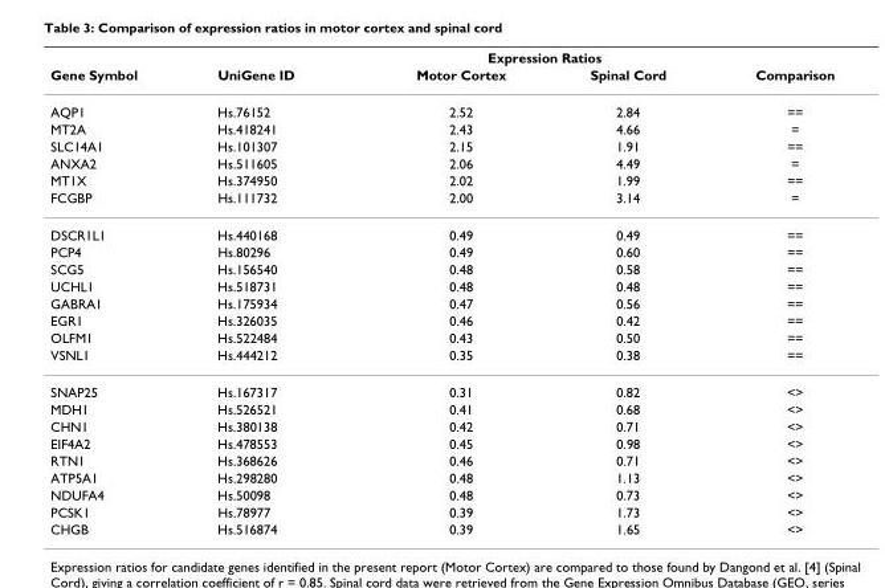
<table><thead><tr><td rowspan="2">Gene Symbol</td><td rowspan="2">UniGene ID</td><td colspan="2">Expression Ratios</td><td rowspan="2">Comparison</td></tr><tr><td>Motor Cortex</td><td>Spinal Cord</td></tr></thead><tbody><tr><td>AQP1</td><td>Hs.76152</td><td>2.52</td><td>2.84</td><td>==</td></tr><tr><td>MT2A</td><td>Hs.418241</td><td>2.43</td><td>4.66</td><td>=</td></tr><tr><td>SLC14A1</td><td>Hs.101307</td><td>2.15</td><td>1.91</td><td>==</td></tr><tr><td>ANXA2</td><td>Hs.511605</td><td>2.06</td><td>4.49</td><td>=</td></tr><tr><td>MT1X</td><td>Hs.374950</td><td>2.02</td><td>1.99</td><td>==</td></tr><tr><td>FCGBP</td><td>Hs.111732</td><td>2.00</td><td>3.14</td><td>=</td></tr><tr><td>DSCR1L1</td><td>Hs.440168</td><td>0.49</td><td>0.49</td><td>==</td></tr><tr><td>PCP4</td><td>Hs.80296</td><td>0.49</td><td>0.60</td><td>==</td></tr><tr><td>SCG5</td><td>Hs.156540</td><td>0.48</td><td>0.58</td><td>==</td></tr><tr><td>UCHL1</td><td>Hs.518731</td><td>0.48</td><td>0.48</td><td>==</td></tr><tr><td>GABRA1</td><td>Hs.175934</td><td>0.47</td><td>0.56</td><td>==</td></tr><tr><td>EGR1</td><td>Hs.326035</td><td>0.46</td><td>0.42</td><td>==</td></tr><tr><td>OLFM1</td><td>Hs.522484</td><td>0.43</td><td>0.50</td><td>==</td></tr><tr><td>VSNL1</td><td>Hs.444212</td><td>0.35</td><td>0.38</td><td>==</td></tr><tr><td>SNAP25</td><td>Hs.167317</td><td>0.31</td><td>0.82</td><td>&lt;&gt;</td></tr><tr><td>MDH1</td><td>Hs.526521</td><td>0.41</td><td>0.68</td><td>&lt;&gt;</td></tr><tr><td>CHN1</td><td>Hs.380138</td><td>0.42</td><td>0.71</td><td>&lt;&gt;</td></tr><tr><td>EIF4A2</td><td>Hs.478553</td><td>0.45</td><td>0.98</td><td>&lt;&gt;</td></tr><tr><td>RTN1</td><td>Hs.368626</td><td>0.46</td><td>0.71</td><td>&lt;&gt;</td></tr><tr><td>ATP5A1</td><td>Hs.298280</td><td>0.48</td><td>1.13</td><td>&lt;&gt;</td></tr><tr><td>NDUFA4</td><td>Hs.50098</td><td>0.48</td><td>0.73</td><td>&lt;&gt;</td></tr><tr><td>PCSK1</td><td>Hs.78977</td><td>0.39</td><td>1.73</td><td>&lt;&gt;</td></tr><tr><td>CHGB</td><td>Hs.516874</td><td>0.39</td><td>1.65</td><td>&lt;&gt;</td></tr></tbody></table>